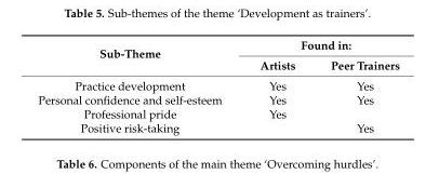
<table><thead><tr><td rowspan="2">Sub-Theme</td><td colspan="2">Found in:</td></tr><tr><td>Artists</td><td>Peer Trainers</td></tr></thead><tbody><tr><td>Practice development</td><td>Yes</td><td>Yes</td></tr><tr><td>Personal confidence and self-esteem</td><td>Yes</td><td>Yes</td></tr><tr><td>Professional pride</td><td>Yes</td><td></td></tr><tr><td>Positive risk-taking</td><td></td><td>Yes</td></tr></tbody></table>